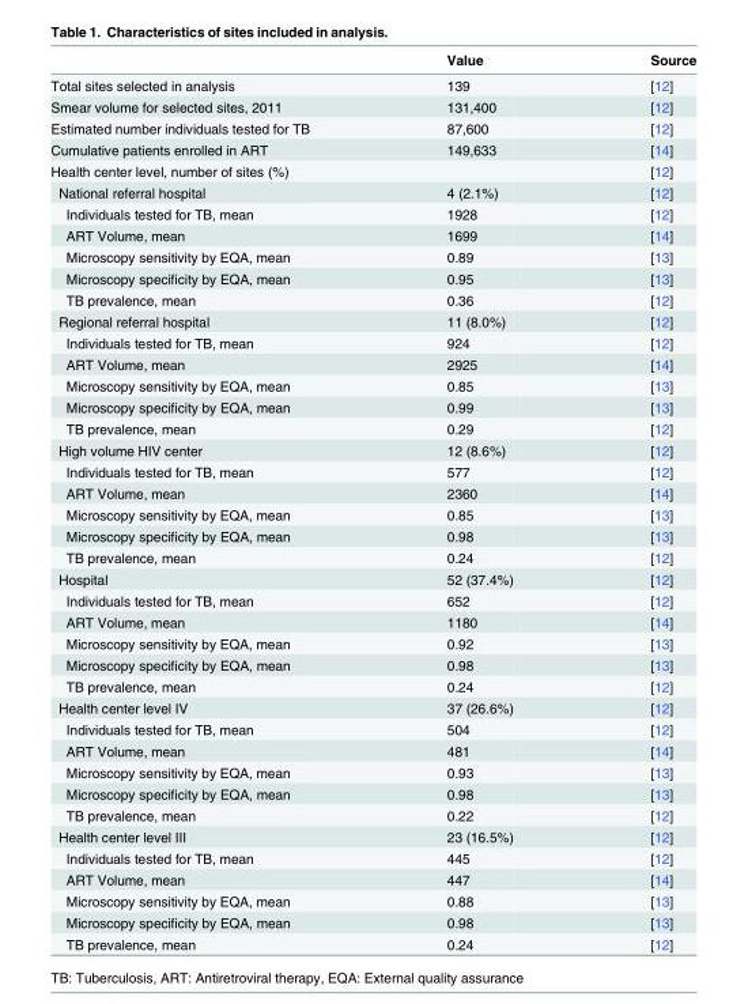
<table><thead><tr><td></td><td>Value</td><td>Source</td></tr></thead><tbody><tr><td>Total sites selected in analysis</td><td>139</td><td>[12]</td></tr><tr><td>Smear volume for selected sites, 2011</td><td>131,400</td><td>[12]</td></tr><tr><td>Estimated number individuals tested for TB</td><td>87,600</td><td>[12]</td></tr><tr><td>Cumulative patients enrolled in ART</td><td>149,633</td><td>[14]</td></tr><tr><td>Health center level, number of sites (%)</td><td></td><td>[12]</td></tr><tr><td>National referral hospital</td><td>4 (2.1%)</td><td>[12]</td></tr><tr><td>Individuals tested for TB, mean</td><td>1928</td><td>[12]</td></tr><tr><td>ART Volume, mean</td><td>1699</td><td>[14]</td></tr><tr><td>Microscopy sensitivity by EQA, mean</td><td>0.89</td><td>[13]</td></tr><tr><td>Microscopy specificity by EQA, mean</td><td>0.95</td><td>[13]</td></tr><tr><td>TB prevalence, mean</td><td>0.36</td><td>[12]</td></tr><tr><td>Regional referral hospital</td><td>11 (8.0%)</td><td>[12]</td></tr><tr><td>Individuals tested for TB, mean</td><td>924</td><td>[12]</td></tr><tr><td>ART Volume, mean</td><td>2925</td><td>[14]</td></tr><tr><td>Microscopy sensitivity by EQA, mean</td><td>0.85</td><td>[13]</td></tr><tr><td>Microscopy specificity by EQA, mean</td><td>0.99</td><td>[13]</td></tr><tr><td>TB prevalence, mean</td><td>0.29</td><td>[12]</td></tr><tr><td>High volume HIV center</td><td>12 (8.6%)</td><td>[12]</td></tr><tr><td>Individuals tested for TB, mean</td><td>577</td><td>[12]</td></tr><tr><td>ART Volume, mean</td><td>2360</td><td>[14]</td></tr><tr><td>Microscopy sensitivity by EQA, mean</td><td>0.85</td><td>[13]</td></tr><tr><td>Microscopy specificity by EQA, mean</td><td>0.98</td><td>[13]</td></tr><tr><td>TB prevalence, mean</td><td>0.24</td><td>[12]</td></tr><tr><td>Hospital</td><td>52 (37.4%)</td><td>[12]</td></tr><tr><td>Individuals tested for TB, mean</td><td>652</td><td>[12]</td></tr><tr><td>ART Volume, mean</td><td>1180</td><td>[14]</td></tr><tr><td>Microscopy sensitivity by EQA, mean</td><td>0.92</td><td>[13]</td></tr><tr><td>Microscopy specificity by EQA, mean</td><td>0.98</td><td>[13]</td></tr><tr><td>TB prevalence, mean</td><td>0.24</td><td>[12]</td></tr><tr><td>Health center level IV</td><td>37 (26.6%)</td><td>[12]</td></tr><tr><td>Individuals tested for TB, mean</td><td>504</td><td>[12]</td></tr><tr><td>ART Volume, mean</td><td>481</td><td>[14]</td></tr><tr><td>Microscopy sensitivity by EQA, mean</td><td>0.93</td><td>[13]</td></tr><tr><td>Microscopy specificity by EQA, mean</td><td>0.98</td><td>[13]</td></tr><tr><td>TB prevalence, mean</td><td>0.22</td><td>[12]</td></tr><tr><td>Health center level III</td><td>23 (16.5%)</td><td>[12]</td></tr><tr><td>Individuals tested for TB, mean</td><td>445</td><td>[12]</td></tr><tr><td>ART Volume, mean</td><td>447</td><td>[14]</td></tr><tr><td>Microscopy sensitivity by EQA, mean</td><td>0.88</td><td>[13]</td></tr><tr><td>Microscopy specificity by EQA, mean</td><td>0.98</td><td>[13]</td></tr><tr><td>TB prevalence, mean</td><td>0.24</td><td>[12]</td></tr></tbody></table>